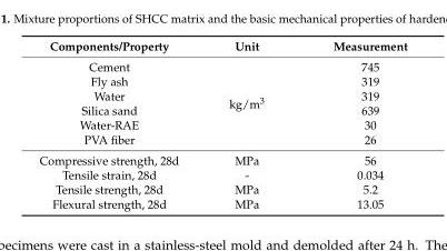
<table><thead><tr><td>Components/Property</td><td>Unit</td><td>Measurement</td></tr></thead><tbody><tr><td>Cement</td><td rowspan="6">kg/m<sup>3</sup></td><td>745</td></tr><tr><td>Fly ash</td><td>319</td></tr><tr><td>Water</td><td>319</td></tr><tr><td>Silica sand</td><td>639</td></tr><tr><td>Water-RAE</td><td>30</td></tr><tr><td>PVA fiber</td><td>26</td></tr><tr><td>Compressive strength, 28d</td><td>MPa</td><td>56</td></tr><tr><td>Tensile strain, 28d</td><td>-</td><td>0.034</td></tr><tr><td>Tensile strength, 28d</td><td>MPa</td><td>5.2</td></tr><tr><td>Flexural strength, 28d</td><td>MPa</td><td>13.05</td></tr></tbody></table>